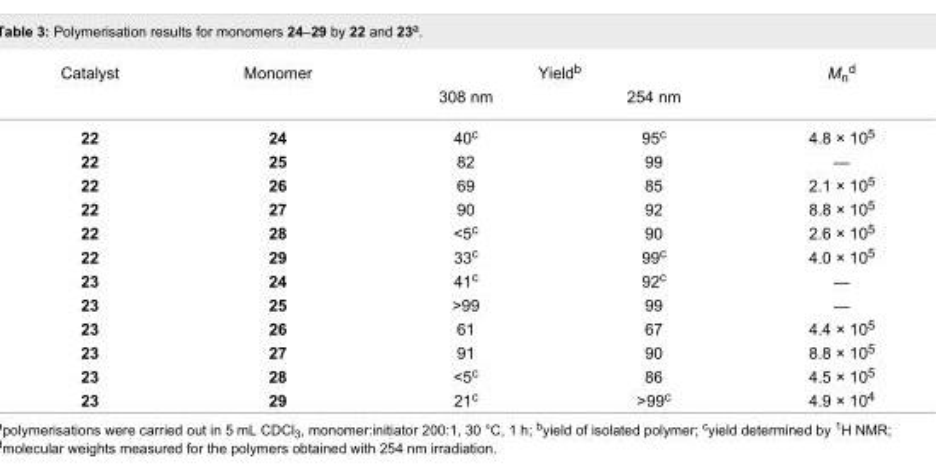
<table><tbody><tr><td rowspan="2">Catalyst</td><td rowspan="2">Monomer</td><td colspan="2">Yield<sup>b</sup></td><td rowspan="2">M<sub>n</sub><sup>d</sup></td></tr><tr><td>308 nm</td><td>254 nm</td></tr><tr><td>22</td><td>24</td><td>40<sup>c</sup></td><td>95<sup>c</sup></td><td>4.8 × 10<sup>5</sup></td></tr><tr><td>22</td><td>25</td><td>82</td><td>99</td><td>—</td></tr><tr><td>22</td><td>26</td><td>69</td><td>85</td><td>2.1 × 10<sup>5</sup></td></tr><tr><td>22</td><td>27</td><td>90</td><td>92</td><td>8.8 × 10<sup>5</sup></td></tr><tr><td>22</td><td>28</td><td>&lt;5<sup>c</sup></td><td>90</td><td>2.6 × 10<sup>5</sup></td></tr><tr><td>22</td><td>29</td><td>33<sup>c</sup></td><td>99<sup>c</sup></td><td>4.0 × 10<sup>5</sup></td></tr><tr><td>23</td><td>24</td><td>41<sup>c</sup></td><td>92<sup>c</sup></td><td>—</td></tr><tr><td>23</td><td>25</td><td>&gt;99</td><td>99</td><td>—</td></tr><tr><td>23</td><td>26</td><td>61</td><td>67</td><td>4.4 × 10<sup>5</sup></td></tr><tr><td>23</td><td>27</td><td>91</td><td>90</td><td>8.8 × 10<sup>5</sup></td></tr><tr><td>23</td><td>28</td><td>&lt;5<sup>c</sup></td><td>86</td><td>4.5 × 10<sup>5</sup></td></tr><tr><td>23</td><td>29</td><td>21<sup>c</sup></td><td>&gt;99<sup>c</sup></td><td>4.9 × 10<sup>4</sup></td></tr></tbody></table>